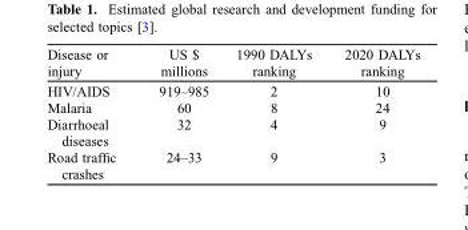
<table><thead><tr><td>Disease or injury</td><td>US $ millions</td><td>1990 DALYs ranking</td><td>2020 DALYs ranking</td></tr></thead><tbody><tr><td>HIV/AIDS</td><td>919–985</td><td>2</td><td>10</td></tr><tr><td>Malaria</td><td>60</td><td>8</td><td>24</td></tr><tr><td>Diarrhoeal diseases</td><td>32</td><td>4</td><td>9</td></tr><tr><td>Road traffic crashes</td><td>24–33</td><td>9</td><td>3</td></tr></tbody></table>